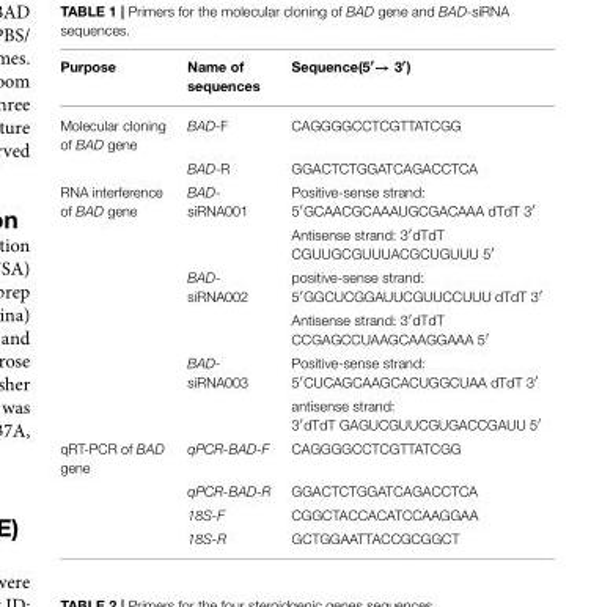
<table><thead><tr><td>Purpose</td><td>Name of sequences</td><td>Sequence(5′→ 3′)</td></tr></thead><tbody><tr><td rowspan="2">Molecular cloning of BAD gene</td><td>BAD-F</td><td>CAGGGGCCTCGTTATCGG</td></tr><tr><td>BAD-R</td><td>GGACTCTGGATCAGACCTCA</td></tr><tr><td rowspan="6">RNA interference of BAD gene</td><td>BAD- siRNA001</td><td>Positive-sense strand: 5′GCAACGCAAAUGCGACAAA dTdT 3′</td></tr><tr><td></td><td>Antisense strand: 3′dTdT CGUUGCGUUUACGCUGUUU 5′</td></tr><tr><td>BAD- siRNA002</td><td>positive-sense strand: 5′GGCUCGGAUUCGUUCCUUU dTdT 3′</td></tr><tr><td></td><td>Antisense strand: 3′dTdT CCGAGCCUAAGCAAGGAAA 5′</td></tr><tr><td>BAD- siRNA003</td><td>Positive-sense strand: 5′CUCAGCAAGCACUGGCUAA dTdT 3′</td></tr><tr><td></td><td>antisense strand: 3′dTdT GAGUCGUUCGUGACCGAUU 5′</td></tr><tr><td rowspan="4">qRT-PCR of BAD gene</td><td>qPCR-BAD-F</td><td>CAGGGGCCTCGTTATCGG</td></tr><tr><td>qPCR-BAD-R</td><td>GGACTCTGGATCAGACCTCA</td></tr><tr><td>18S-F</td><td>CGGCTACCACATCCAAGGAA</td></tr><tr><td>18S-R</td><td>GCTGGAATTACCGCGGCT</td></tr></tbody></table>